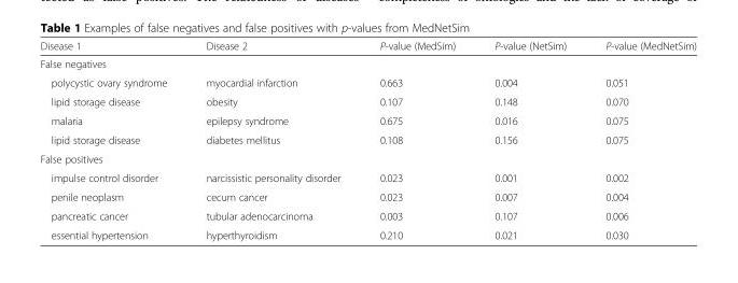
<table><thead><tr><td>Disease 1</td><td>Disease 2</td><td>P-value (MedSim)</td><td>P-value (NetSim)</td><td>P-value (MedNetSim)</td></tr></thead><tbody><tr><td colspan="5">False negatives</td></tr><tr><td>polycystic ovary syndrome</td><td>myocardial infarction</td><td>0.663</td><td>0.004</td><td>0.051</td></tr><tr><td>lipid storage disease</td><td>obesity</td><td>0.107</td><td>0.148</td><td>0.070</td></tr><tr><td>malaria</td><td>epilepsy syndrome</td><td>0.675</td><td>0.016</td><td>0.075</td></tr><tr><td>lipid storage disease</td><td>diabetes mellitus</td><td>0.108</td><td>0.156</td><td>0.075</td></tr><tr><td colspan="5">False positives</td></tr><tr><td>impulse control disorder</td><td>narcissistic personality disorder</td><td>0.023</td><td>0.001</td><td>0.002</td></tr><tr><td>penile neoplasm</td><td>cecum cancer</td><td>0.023</td><td>0.007</td><td>0.004</td></tr><tr><td>pancreatic cancer</td><td>tubular adenocarcinoma</td><td>0.003</td><td>0.107</td><td>0.006</td></tr><tr><td>essential hypertension</td><td>hyperthyroidism</td><td>0.210</td><td>0.021</td><td>0.030</td></tr></tbody></table>